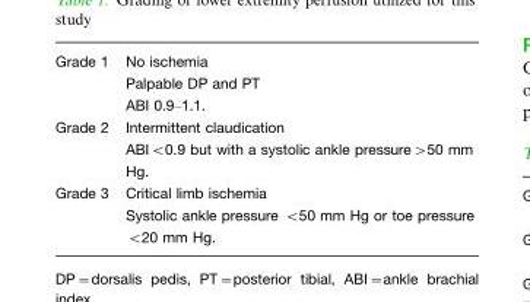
<table><tbody><tr><td rowspan="3">Grade 1</td><td>No ischemia</td></tr><tr><td>Palpable DP and PT</td></tr><tr><td>ABI 0.9–1.1.</td></tr><tr><td rowspan="2">Grade 2</td><td>Intermittent claudication</td></tr><tr><td>ABI&lt;0.9 but with a systolic ankle pressure&gt;50 mm Hg.</td></tr><tr><td rowspan="2">Grade 3</td><td>Critical limb ischemia</td></tr><tr><td>Systolic ankle pressure &lt;50 mm Hg or toe pressure &lt;20 mm Hg.</td></tr></tbody></table>